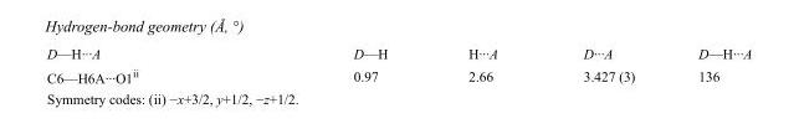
<table><tbody><tr><td>D—H···A</td><td>D—H</td><td>H···A</td><td>D···A</td><td>D—H···A</td></tr><tr><td>C6—H6A···O1<sup>ii</sup></td><td>0.97</td><td>2.66</td><td>3.427 (3)</td><td>136</td></tr></tbody></table>